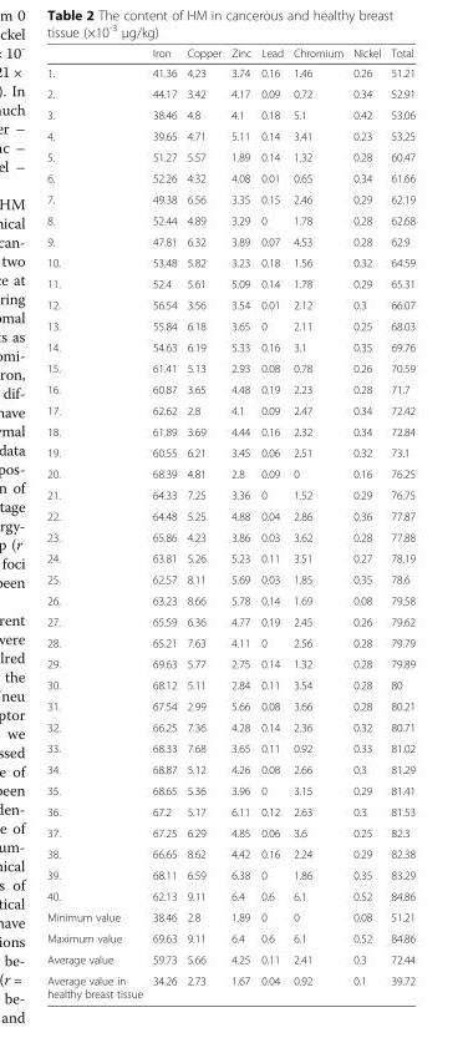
<table><thead><tr><td></td><td>Iron</td><td>Copper</td><td>Zinc</td><td>Lead</td><td>Chromium</td><td>Nickel</td><td>Total</td></tr></thead><tbody><tr><td>1.</td><td>41.36</td><td>4.23</td><td>3.74</td><td>0.16</td><td>1.46</td><td>0.26</td><td>51.21</td></tr><tr><td>2.</td><td>44.17</td><td>3.42</td><td>4.17</td><td>0.09</td><td>0.72</td><td>0.34</td><td>52.91</td></tr><tr><td>3.</td><td>38.46</td><td>4.8</td><td>4.1</td><td>0.18</td><td>5.1</td><td>0.42</td><td>53.06</td></tr><tr><td>4.</td><td>39.65</td><td>4.71</td><td>5.11</td><td>0.14</td><td>3.41</td><td>0.23</td><td>53.25</td></tr><tr><td>5.</td><td>51.27</td><td>5.57</td><td>1.89</td><td>0.14</td><td>1.32</td><td>0.28</td><td>60.47</td></tr><tr><td>6.</td><td>52.26</td><td>4.32</td><td>4.08</td><td>0.01</td><td>0.65</td><td>0.34</td><td>61.66</td></tr><tr><td>7.</td><td>49.38</td><td>6.56</td><td>3.35</td><td>0.15</td><td>2.46</td><td>0.29</td><td>62.19</td></tr><tr><td>8.</td><td>52.44</td><td>4.89</td><td>3.29</td><td>0</td><td>1.78</td><td>0.28</td><td>62.68</td></tr><tr><td>9.</td><td>47.81</td><td>6.32</td><td>3.89</td><td>0.07</td><td>4.53</td><td>0.28</td><td>62.9</td></tr><tr><td>10.</td><td>53.48</td><td>5.82</td><td>3.23</td><td>0.18</td><td>1.56</td><td>0.32</td><td>64.59</td></tr><tr><td>11.</td><td>52.4</td><td>5.61</td><td>5.09</td><td>0.14</td><td>1.78</td><td>0.29</td><td>65.31</td></tr><tr><td>12.</td><td>56.54</td><td>3.56</td><td>3.54</td><td>0.01</td><td>2.12</td><td>0.3</td><td>66.07</td></tr><tr><td>13.</td><td>55.84</td><td>6.18</td><td>3.65</td><td>0</td><td>2.11</td><td>0.25</td><td>68.03</td></tr><tr><td>14.</td><td>54.63</td><td>6.19</td><td>5.33</td><td>0.16</td><td>3.1</td><td>0.35</td><td>69.76</td></tr><tr><td>15.</td><td>61.41</td><td>5.13</td><td>2.93</td><td>0.08</td><td>0.78</td><td>0.26</td><td>70.59</td></tr><tr><td>16.</td><td>60.87</td><td>3.65</td><td>4.48</td><td>0.19</td><td>2.23</td><td>0.28</td><td>71.7</td></tr><tr><td>17.</td><td>62.62</td><td>2.8</td><td>4.1</td><td>0.09</td><td>2.47</td><td>0.34</td><td>72.42</td></tr><tr><td>18.</td><td>61.89</td><td>3.69</td><td>4.44</td><td>0.16</td><td>2.32</td><td>0.34</td><td>72.84</td></tr><tr><td>19.</td><td>60.55</td><td>6.21</td><td>3.45</td><td>0.06</td><td>2.51</td><td>0.32</td><td>73.1</td></tr><tr><td>20.</td><td>68.39</td><td>4.81</td><td>2.8</td><td>0.09</td><td>0</td><td>0.16</td><td>76.25</td></tr><tr><td>21.</td><td>64.33</td><td>7.25</td><td>3.36</td><td>0</td><td>1.52</td><td>0.29</td><td>76.75</td></tr><tr><td>22.</td><td>64.48</td><td>5.25</td><td>4.88</td><td>0.04</td><td>2.86</td><td>0.36</td><td>77.87</td></tr><tr><td>23.</td><td>65.86</td><td>4.23</td><td>3.86</td><td>0.03</td><td>3.62</td><td>0.28</td><td>77.88</td></tr><tr><td>24.</td><td>63.81</td><td>5.26</td><td>5.23</td><td>0.11</td><td>3.51</td><td>0.27</td><td>78.19</td></tr><tr><td>25.</td><td>62.57</td><td>8.11</td><td>5.69</td><td>0.03</td><td>1.85</td><td>0.35</td><td>78.6</td></tr><tr><td>26.</td><td>63.23</td><td>8.66</td><td>5.78</td><td>0.14</td><td>1.69</td><td>0.08</td><td>79.58</td></tr><tr><td>27.</td><td>65.59</td><td>6.36</td><td>4.77</td><td>0.19</td><td>2.45</td><td>0.26</td><td>79.62</td></tr><tr><td>28.</td><td>65.21</td><td>7.63</td><td>4.11</td><td>0</td><td>2.56</td><td>0.28</td><td>79.79</td></tr><tr><td>29.</td><td>69.63</td><td>5.77</td><td>2.75</td><td>0.14</td><td>1.32</td><td>0.28</td><td>79.89</td></tr><tr><td>30.</td><td>68.12</td><td>5.11</td><td>2.84</td><td>0.11</td><td>3.54</td><td>0.28</td><td>80</td></tr><tr><td>31.</td><td>67.54</td><td>2.99</td><td>5.66</td><td>0.08</td><td>3.66</td><td>0.28</td><td>80.21</td></tr><tr><td>32.</td><td>66.25</td><td>7.36</td><td>4.28</td><td>0.14</td><td>2.36</td><td>0.32</td><td>80.71</td></tr><tr><td>33.</td><td>68.33</td><td>7.68</td><td>3.65</td><td>0.11</td><td>0.92</td><td>0.33</td><td>81.02</td></tr><tr><td>34.</td><td>68.87</td><td>5.12</td><td>4.26</td><td>0.08</td><td>2.66</td><td>0.3</td><td>81.29</td></tr><tr><td>35.</td><td>68.65</td><td>5.36</td><td>3.96</td><td>0</td><td>3.15</td><td>0.29</td><td>81.41</td></tr><tr><td>36.</td><td>67.2</td><td>5.17</td><td>6.11</td><td>0.12</td><td>2.63</td><td>0.3</td><td>81.53</td></tr><tr><td>37.</td><td>67.25</td><td>6.29</td><td>4.85</td><td>0.06</td><td>3.6</td><td>0.25</td><td>82.3</td></tr><tr><td>38.</td><td>66.65</td><td>8.62</td><td>4.42</td><td>0.16</td><td>2.24</td><td>0.29</td><td>82.38</td></tr><tr><td>39.</td><td>68.11</td><td>6.59</td><td>6.38</td><td>0</td><td>1.86</td><td>0.35</td><td>83.29</td></tr><tr><td>40.</td><td>62.13</td><td>9.11</td><td>6.4</td><td>0.6</td><td>6.1</td><td>0.52</td><td>84.86</td></tr><tr><td>Minimum value</td><td>38.46</td><td>2.8</td><td>1.89</td><td>0</td><td>0</td><td>0.08</td><td>51.21</td></tr><tr><td>Maximum value</td><td>69.63</td><td>9.11</td><td>6.4</td><td>0.6</td><td>6.1</td><td>0.52</td><td>84.86</td></tr><tr><td>Average value</td><td>59.73</td><td>5.66</td><td>4.25</td><td>0.11</td><td>2.41</td><td>0.3</td><td>72.44</td></tr><tr><td>Average value in healthy breast tissue</td><td>34.26</td><td>2.73</td><td>1.67</td><td>0.04</td><td>0.92</td><td>0.1</td><td>39.72</td></tr></tbody></table>